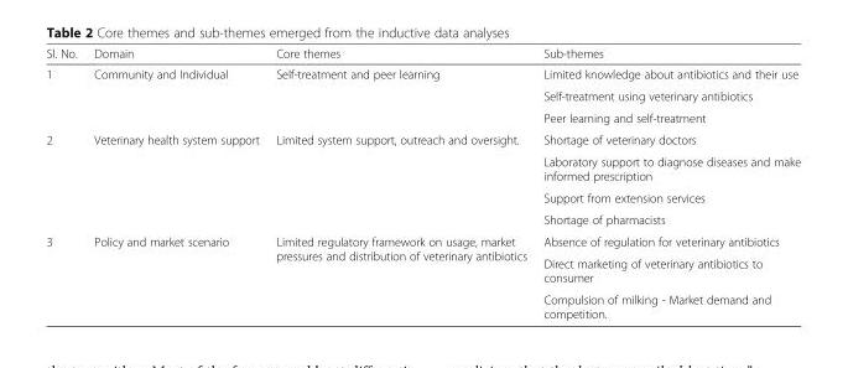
<table><thead><tr><td>Sl. No.</td><td>Domain</td><td>Core themes</td><td>Sub-themes</td></tr></thead><tbody><tr><td rowspan="3">1</td><td rowspan="3">Community and Individual</td><td rowspan="3">Self-treatment and peer learning</td><td>Limited knowledge about antibiotics and their use</td></tr><tr><td>Self-treatment using veterinary antibiotics</td></tr><tr><td>Peer learning and self-treatment</td></tr><tr><td rowspan="4">2</td><td rowspan="4">Veterinary health system support</td><td rowspan="4">Limited system support, outreach and oversight.</td><td>Shortage of veterinary doctors</td></tr><tr><td>Laboratory support to diagnose diseases and make informed prescription</td></tr><tr><td>Support from extension services</td></tr><tr><td>Shortage of pharmacists</td></tr><tr><td rowspan="3">3</td><td rowspan="3">Policy and market scenario</td><td rowspan="3">Limited regulatory framework on usage, market pressures and distribution of veterinary antibiotics</td><td>Absence of regulation for veterinary antibiotics</td></tr><tr><td>Direct marketing of veterinary antibiotics to consumer</td></tr><tr><td>Compulsion of milking - Market demand and competition.</td></tr></tbody></table>